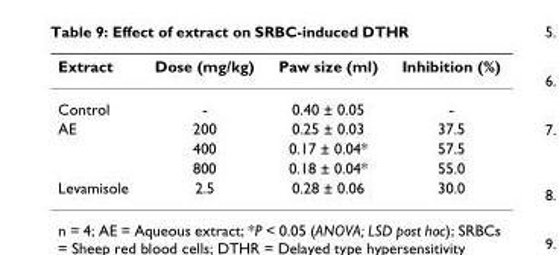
<table><thead><tr><td>Extract</td><td>Dose (mg/kg)</td><td>Paw size (ml)</td><td>Inhibition (%)</td></tr></thead><tbody><tr><td>Control</td><td>-</td><td>0.40 ± 0.05</td><td>-</td></tr><tr><td rowspan="3">AE</td><td>200</td><td>0.25 ± 0.03</td><td>37.5</td></tr><tr><td>400</td><td>0.17 ± 0.04*</td><td>57.5</td></tr><tr><td>800</td><td>0.18 ± 0.04*</td><td>55.0</td></tr><tr><td>Levamisole</td><td>2.5</td><td>0.28 ± 0.06</td><td>30.0</td></tr></tbody></table>